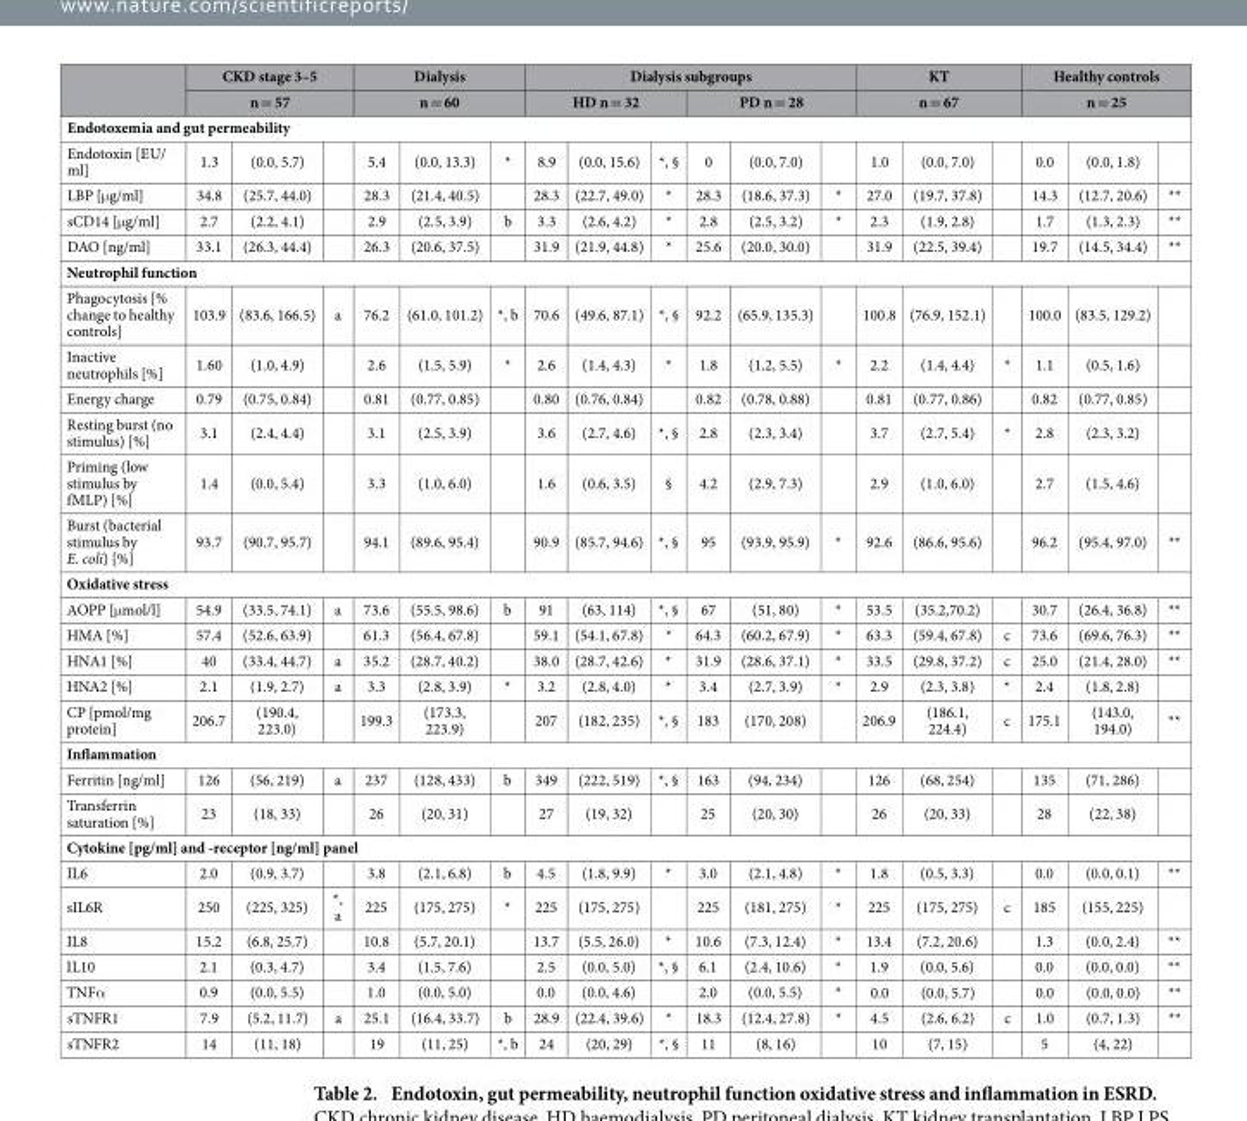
<table><thead><tr><td rowspan="2"></td><td rowspan="2" colspan="3">CKD stage 3–5 n = 57</td><td rowspan="2" colspan="3">Dialysis n = 60</td><td colspan="6">Dialysis subgroups</td><td rowspan="2" colspan="3">KT n = 67</td><td rowspan="2" colspan="3">Healthy controls n = 25</td></tr><tr><td colspan="3">HD n = 32</td><td colspan="3">PD n = 28</td></tr><tr><td colspan="19">Endotoxemia and gut permeability</td></tr><tr><td>Endotoxin [EU/ ml]</td><td>1.3</td><td>(0.0, 5.7)</td><td></td><td>5.4</td><td>(0.0, 13.3)</td><td>*</td><td>8.9</td><td>(0.0, 15.6)</td><td>*, §</td><td>0</td><td>(0.0, 7.0)</td><td></td><td>1.0</td><td>(0.0, 7.0)</td><td></td><td>0.0</td><td>(0.0, 1.8)</td><td></td></tr></thead><tbody><tr><td>LBP [μ g/ml]</td><td>34.8</td><td>(25.7, 44.0)</td><td></td><td>28.3</td><td>(21.4, 40.5)</td><td></td><td>28.3</td><td>(22.7, 49.0)</td><td>*</td><td>28.3</td><td>(18.6, 37.3)</td><td>*</td><td>27.0</td><td>(19.7, 37.8)</td><td></td><td>14.3</td><td>(12.7, 20.6)</td><td>**</td></tr><tr><td>sCD14 [μ g/ml]</td><td>2.7</td><td>(2.2, 4.1)</td><td></td><td>2.9</td><td>(2.5, 3.9)</td><td>b</td><td>3.3</td><td>(2.6, 4.2)</td><td>*</td><td>2.8</td><td>(2.5, 3.2)</td><td>*</td><td>2.3</td><td>(1.9, 2.8)</td><td></td><td>1.7</td><td>(1.3, 2.3)</td><td>**</td></tr><tr><td>DAO [ng/ml]</td><td>33.1</td><td>(26.3, 44.4)</td><td></td><td>26.3</td><td>(20.6, 37.5)</td><td></td><td>31.9</td><td>(21.9, 44.8)</td><td>*</td><td>25.6</td><td>(20.0, 30.0)</td><td></td><td>31.9</td><td>(22.5, 39.4)</td><td></td><td>19.7</td><td>(14.5, 34.4)</td><td>**</td></tr><tr><td colspan="19">Neutrophil function</td></tr><tr><td>Phagocytosis [% change to healthy controls]</td><td>103.9</td><td>(83.6, 166.5)</td><td>a</td><td>76.2</td><td>(61.0, 101.2)</td><td>*, b</td><td>70.6</td><td>(49.6, 87.1)</td><td>*, §</td><td>92.2</td><td>(65.9, 135.3)</td><td></td><td>100.8</td><td>(76.9, 152.1)</td><td></td><td>100.0</td><td>(83.5, 129.2)</td><td></td></tr><tr><td>Inactive neutrophils [%]</td><td>1.60</td><td>(1.0, 4.9)</td><td></td><td>2.6</td><td>(1.5, 5.9)</td><td>*</td><td>2.6</td><td>(1.4, 4.3)</td><td>*</td><td>1.8</td><td>(1.2, 5.5)</td><td>*</td><td>2.2</td><td>(1.4, 4.4)</td><td>*</td><td>1.1</td><td>(0.5, 1.6)</td><td></td></tr><tr><td>Energy charge</td><td>0.79</td><td>(0.75, 0.84)</td><td></td><td>0.81</td><td>(0.77, 0.85)</td><td></td><td>0.80</td><td>(0.76, 0.84)</td><td></td><td>0.82</td><td>(0.78, 0.88)</td><td></td><td>0.81</td><td>(0.77, 0.86)</td><td></td><td>0.82</td><td>(0.77, 0.85)</td><td></td></tr><tr><td>Resting burst (no stimulus) [%]</td><td>3.1</td><td>(2.4, 4.4)</td><td></td><td>3.1</td><td>(2.5, 3.9)</td><td></td><td>3.6</td><td>(2.7, 4.6)</td><td>*, §</td><td>2.8</td><td>(2.3, 3.4)</td><td></td><td>3.7</td><td>(2.7, 5.4)</td><td>*</td><td>2.8</td><td>(2.3, 3.2)</td><td></td></tr><tr><td>Priming (low stimulus by fMLP) [%]</td><td>1.4</td><td>(0.0, 5.4)</td><td></td><td>3.3</td><td>(1.0, 6.0)</td><td></td><td>1.6</td><td>(0.6, 3.5)</td><td>§</td><td>4.2</td><td>(2.9, 7.3)</td><td></td><td>2.9</td><td>(1.0, 6.0)</td><td></td><td>2.7</td><td>(1.5, 4.6)</td><td></td></tr><tr><td>Burst (bacterial stimulus by E. coli) [%]</td><td>93.7</td><td>(90.7, 95.7)</td><td></td><td>94.1</td><td>(89.6, 95.4)</td><td></td><td>90.9</td><td>(85.7, 94.6)</td><td>*, §</td><td>95</td><td>(93.9, 95.9)</td><td>*</td><td>92.6</td><td>(86.6, 95.6)</td><td></td><td>96.2</td><td>(95.4, 97.0)</td><td>**</td></tr><tr><td colspan="19">Oxidative stress</td></tr><tr><td>AOPP [μ mol/l]</td><td>54.9</td><td>(33.5, 74.1)</td><td>a</td><td>73.6</td><td>(55.5, 98.6)</td><td>b</td><td>91</td><td>(63, 114)</td><td>*, §</td><td>67</td><td>(51, 80)</td><td>*</td><td>53.5</td><td>(35.2,70.2)</td><td></td><td>30.7</td><td>(26.4, 36.8)</td><td>**</td></tr><tr><td>HMA [%]</td><td>57.4</td><td>(52.6, 63.9)</td><td></td><td>61.3</td><td>(56.4, 67.8)</td><td></td><td>59.1</td><td>(54.1, 67.8)</td><td>*</td><td>64.3</td><td>(60.2, 67.9)</td><td>*</td><td>63.3</td><td>(59.4, 67.8)</td><td>c</td><td>73.6</td><td>(69.6, 76.3)</td><td>**</td></tr><tr><td>HNA1 [%]</td><td>40</td><td>(33.4, 44.7)</td><td>a</td><td>35.2</td><td>(28.7, 40.2)</td><td></td><td>38.0</td><td>(28.7, 42.6)</td><td>*</td><td>31.9</td><td>(28.6, 37.1)</td><td>*</td><td>33.5</td><td>(29.8, 37.2)</td><td>c</td><td>25.0</td><td>(21.4, 28.0)</td><td>**</td></tr><tr><td>HNA2 [%]</td><td>2.1</td><td>(1.9, 2.7)</td><td>a</td><td>3.3</td><td>(2.8, 3.9)</td><td>*</td><td>3.2</td><td>(2.8, 4.0)</td><td>*</td><td>3.4</td><td>(2.7, 3.9)</td><td>*</td><td>2.9</td><td>(2.3, 3.8)</td><td>*</td><td>2.4</td><td>(1.8, 2.8)</td><td></td></tr><tr><td>CP [pmol/mg protein]</td><td>206.7</td><td>(190.4, 223.0)</td><td></td><td>199.3</td><td>(173.3, 223.9)</td><td></td><td>207</td><td>(182, 235)</td><td>*, §</td><td>183</td><td>(170, 208)</td><td></td><td>206.9</td><td>(186.1, 224.4)</td><td>c</td><td>175.1</td><td>(143.0, 194.0)</td><td>**</td></tr><tr><td colspan="19">Inflammation</td></tr><tr><td>Ferritin [ng/ml]</td><td>126</td><td>(56, 219)</td><td>a</td><td>237</td><td>(128, 433)</td><td>b</td><td>349</td><td>(222, 519)</td><td>*, §</td><td>163</td><td>(94, 234)</td><td></td><td>126</td><td>(68, 254)</td><td></td><td>135</td><td>(71, 286)</td><td></td></tr><tr><td>Transferrin saturation [%]</td><td>23</td><td>(18, 33)</td><td></td><td>26</td><td>(20, 31)</td><td></td><td>27</td><td>(19, 32)</td><td></td><td>25</td><td>(20, 30)</td><td></td><td>26</td><td>(20, 33)</td><td></td><td>28</td><td>(22, 38)</td><td></td></tr><tr><td colspan="19">Cytokine [pg/ml] and -receptor [ng/ml] panel</td></tr><tr><td>IL6</td><td>2.0</td><td>(0.9, 3.7)</td><td></td><td>3.8</td><td>(2.1, 6.8)</td><td>b</td><td>4.5</td><td>(1.8, 9.9)</td><td>*</td><td>3.0</td><td>(2.1, 4.8)</td><td>*</td><td>1.8</td><td>(0.5, 3.3)</td><td></td><td>0.0</td><td>(0.0, 0.1)</td><td>**</td></tr><tr><td>sIL6R</td><td>250</td><td>(225, 325)</td><td>*, a</td><td>225</td><td>(175, 275)</td><td>*</td><td>225</td><td>(175, 275)</td><td></td><td>225</td><td>(181, 275)</td><td>*</td><td>225</td><td>(175, 275)</td><td>c</td><td>185</td><td>(155, 225)</td><td></td></tr><tr><td>IL8</td><td>15.2</td><td>(6.8, 25.7)</td><td></td><td>10.8</td><td>(5.7, 20.1)</td><td></td><td>13.7</td><td>(5.5, 26.0)</td><td>*</td><td>10.6</td><td>(7.3, 12.4)</td><td>*</td><td>13.4</td><td>(7.2, 20.6)</td><td></td><td>1.3</td><td>(0.0, 2.4)</td><td>**</td></tr><tr><td>IL10</td><td>2.1</td><td>(0.3, 4.7)</td><td></td><td>3.4</td><td>(1.5, 7.6)</td><td></td><td>2.5</td><td>(0.0, 5.0)</td><td>*, §</td><td>6.1</td><td>(2.4, 10.6)</td><td>*</td><td>1.9</td><td>(0.0, 5.6)</td><td></td><td>0.0</td><td>(0.0, 0.0)</td><td>**</td></tr><tr><td>TNFα</td><td>0.9</td><td>(0.0, 5.5)</td><td></td><td>1.0</td><td>(0.0, 5.0)</td><td></td><td>0.0</td><td>(0.0, 4.6)</td><td></td><td>2.0</td><td>(0.0, 5.5)</td><td>*</td><td>0.0</td><td>(0.0, 5.7)</td><td></td><td>0.0</td><td>(0.0, 0.0)</td><td>**</td></tr><tr><td>sTNFR1</td><td>7.9</td><td>(5.2, 11.7)</td><td>a</td><td>25.1</td><td>(16.4, 33.7)</td><td>b</td><td>28.9</td><td>(22.4, 39.6)</td><td>*</td><td>18.3</td><td>(12.4, 27.8)</td><td>*</td><td>4.5</td><td>(2.6, 6.2)</td><td>c</td><td>1.0</td><td>(0.7, 1.3)</td><td>**</td></tr><tr><td>sTNFR2</td><td>14</td><td>(11, 18)</td><td></td><td>19</td><td>(11, 25)</td><td>*, b</td><td>24</td><td>(20, 29)</td><td>*, §</td><td>11</td><td>(8, 16)</td><td></td><td>10</td><td>(7, 15)</td><td></td><td>5</td><td>(4, 22)</td><td></td></tr></tbody></table>